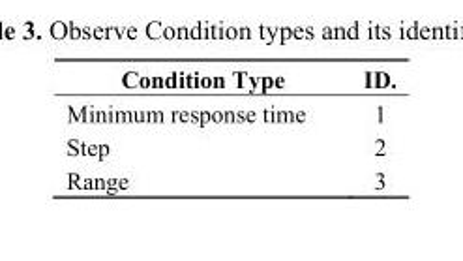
<table><thead><tr><td>Condition Type</td><td>ID.</td></tr></thead><tbody><tr><td>Minimum response time</td><td>1</td></tr><tr><td>Step</td><td>2</td></tr><tr><td>Range</td><td>3</td></tr></tbody></table>